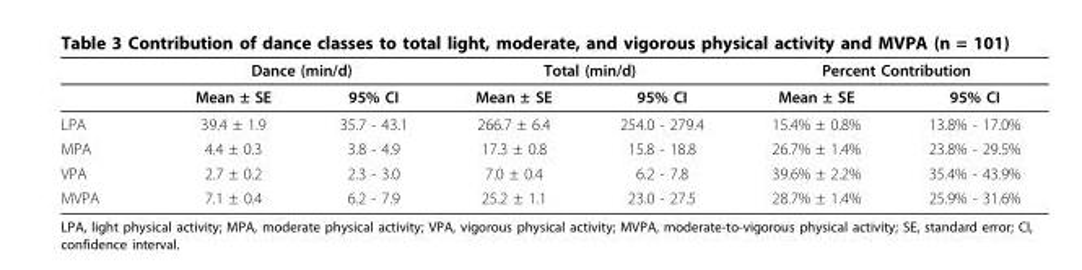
<table><thead><tr><td rowspan="2"></td><td colspan="2">Dance (min/d)</td><td colspan="2">Total (min/d)</td><td colspan="2">Percent Contribution</td></tr><tr><td>Mean ± SE</td><td>95% CI</td><td>Mean ± SE</td><td>95% CI</td><td>Mean ± SE</td><td>95% CI</td></tr></thead><tbody><tr><td>LPA</td><td>39.4 ± 1.9</td><td>35.7 - 43.1</td><td>266.7 ± 6.4</td><td>254.0 - 279.4</td><td>15.4% ± 0.8%</td><td>13.8% - 17.0%</td></tr><tr><td>MPA</td><td>4.4 ± 0.3</td><td>3.8 - 4.9</td><td>17.3 ± 0.8</td><td>15.8 - 18.8</td><td>26.7% ± 1.4%</td><td>23.8% - 29.5%</td></tr><tr><td>VPA</td><td>2.7 ± 0.2</td><td>2.3 - 3.0</td><td>7.0 ± 0.4</td><td>6.2 - 7.8</td><td>39.6% ± 2.2%</td><td>35.4% - 43.9%</td></tr><tr><td>MVPA</td><td>7.1 ± 0.4</td><td>6.2 - 7.9</td><td>25.2 ± 1.1</td><td>23.0 - 27.5</td><td>28.7% ± 1.4%</td><td>25.9% - 31.6%</td></tr></tbody></table>